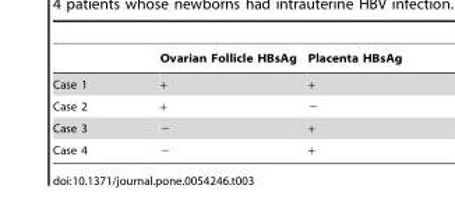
<table><thead><tr><td></td><td>Ovarian Follicle HBsAg</td><td>Placenta HBsAg</td></tr></thead><tbody><tr><td>Case 1</td><td>+</td><td>+</td></tr><tr><td>Case 2</td><td>+</td><td>−</td></tr><tr><td>Case 3</td><td>−</td><td>+</td></tr><tr><td>Case 4</td><td>−</td><td>+</td></tr></tbody></table>